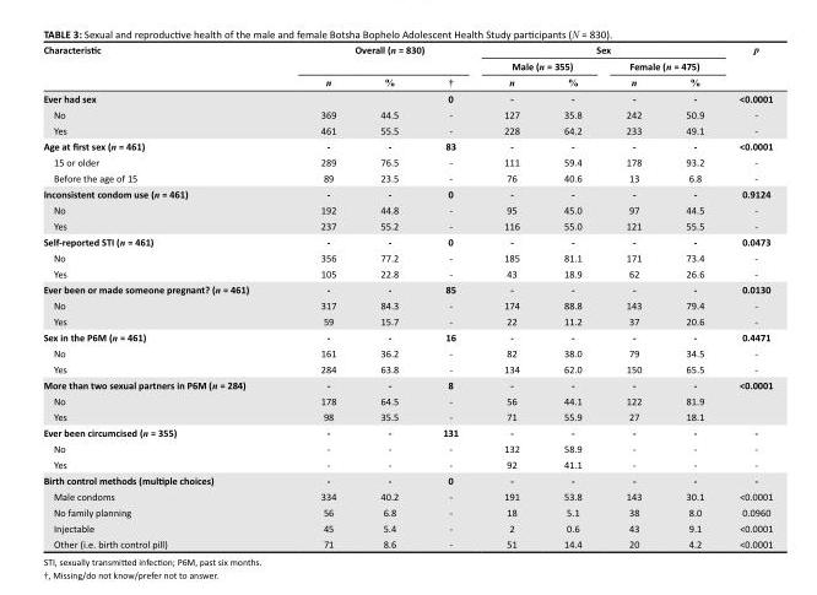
<table><thead><tr><td rowspan="3">Characteristic</td><td rowspan="2" colspan="3">Overall (n = 830)</td><td colspan="4">Sex</td><td rowspan="3">p</td></tr><tr><td colspan="2">Male (n = 355)</td><td colspan="2">Female (n = 475)</td></tr><tr><td>n</td><td>%</td><td>†</td><td>n</td><td>%</td><td>n</td><td>%</td></tr></thead><tbody><tr><td>Ever had sex</td><td></td><td></td><td>0</td><td>-</td><td>-</td><td>-</td><td>-</td><td>&lt;0.0001</td></tr><tr><td>No</td><td>369</td><td>44.5</td><td>-</td><td>127</td><td>35.8</td><td>242</td><td>50.9</td><td>-</td></tr><tr><td>Yes</td><td>461</td><td>55.5</td><td>-</td><td>228</td><td>64.2</td><td>233</td><td>49.1</td><td>-</td></tr><tr><td>Age at first sex (n = 461)</td><td>-</td><td>-</td><td>83</td><td>-</td><td>-</td><td>-</td><td>-</td><td>&lt;0.0001</td></tr><tr><td>15 or older</td><td>289</td><td>76.5</td><td>-</td><td>111</td><td>59.4</td><td>178</td><td>93.2</td><td>-</td></tr><tr><td>Before the age of 15</td><td>89</td><td>23.5</td><td>-</td><td>76</td><td>40.6</td><td>13</td><td>6.8</td><td>-</td></tr><tr><td>Inconsistent condom use (n = 461)</td><td>-</td><td>-</td><td>0</td><td>-</td><td>-</td><td>-</td><td>-</td><td>0.9124</td></tr><tr><td>No</td><td>192</td><td>44.8</td><td>-</td><td>95</td><td>45.0</td><td>97</td><td>44.5</td><td>-</td></tr><tr><td>Yes</td><td>237</td><td>55.2</td><td>-</td><td>116</td><td>55.0</td><td>121</td><td>55.5</td><td>-</td></tr><tr><td>Self-reported STI (n = 461)</td><td>-</td><td>-</td><td>0</td><td>-</td><td>-</td><td>-</td><td>-</td><td>0.0473</td></tr><tr><td>No</td><td>356</td><td>77.2</td><td>-</td><td>185</td><td>81.1</td><td>171</td><td>73.4</td><td>-</td></tr><tr><td>Yes</td><td>105</td><td>22.8</td><td>-</td><td>43</td><td>18.9</td><td>62</td><td>26.6</td><td>-</td></tr><tr><td>Ever been or made someone pregnant? (n = 461)</td><td>-</td><td>-</td><td>85</td><td>-</td><td>-</td><td>-</td><td>-</td><td>0.0130</td></tr><tr><td>No</td><td>317</td><td>84.3</td><td>-</td><td>174</td><td>88.8</td><td>143</td><td>79.4</td><td>-</td></tr><tr><td>Yes</td><td>59</td><td>15.7</td><td>-</td><td>22</td><td>11.2</td><td>37</td><td>20.6</td><td>-</td></tr><tr><td>Sex in the P6M (n = 461)</td><td>-</td><td>-</td><td>16</td><td>-</td><td>-</td><td>-</td><td>-</td><td>0.4471</td></tr><tr><td>No</td><td>161</td><td>36.2</td><td>-</td><td>82</td><td>38.0</td><td>79</td><td>34.5</td><td>-</td></tr><tr><td>Yes</td><td>284</td><td>63.8</td><td>-</td><td>134</td><td>62.0</td><td>150</td><td>65.5</td><td>-</td></tr><tr><td>More than two sexual partners in P6M (n = 284)</td><td>-</td><td>-</td><td>8</td><td>-</td><td>-</td><td>-</td><td>-</td><td>&lt;0.0001</td></tr><tr><td>No</td><td>178</td><td>64.5</td><td>-</td><td>56</td><td>44.1</td><td>122</td><td>81.9</td><td></td></tr><tr><td>Yes</td><td>98</td><td>35.5</td><td>-</td><td>71</td><td>55.9</td><td>27</td><td>18.1</td><td></td></tr><tr><td>Ever been circumcised (n = 355)</td><td>-</td><td>-</td><td>131</td><td>-</td><td>-</td><td>-</td><td>-</td><td>-</td></tr><tr><td>No</td><td>-</td><td>-</td><td>-</td><td>132</td><td>58.9</td><td>-</td><td>-</td><td>-</td></tr><tr><td>Yes</td><td>-</td><td>-</td><td>-</td><td>92</td><td>41.1</td><td>-</td><td>-</td><td>-</td></tr><tr><td>Birth control methods (multiple choices)</td><td>-</td><td>-</td><td>0</td><td>-</td><td>-</td><td>-</td><td>-</td><td>-</td></tr><tr><td>Male condoms</td><td>334</td><td>40.2</td><td>-</td><td>191</td><td>53.8</td><td>143</td><td>30.1</td><td>&lt;0.0001</td></tr><tr><td>No family planning</td><td>56</td><td>6.8</td><td>-</td><td>18</td><td>5.1</td><td>38</td><td>8.0</td><td>0.0960</td></tr><tr><td>Injectable</td><td>45</td><td>5.4</td><td>-</td><td>2</td><td>0.6</td><td>43</td><td>9.1</td><td>&lt;0.0001</td></tr><tr><td>Other (i.e. birth control pill)</td><td>71</td><td>8.6</td><td>-</td><td>51</td><td>14.4</td><td>20</td><td>4.2</td><td>&lt;0.0001</td></tr></tbody></table>